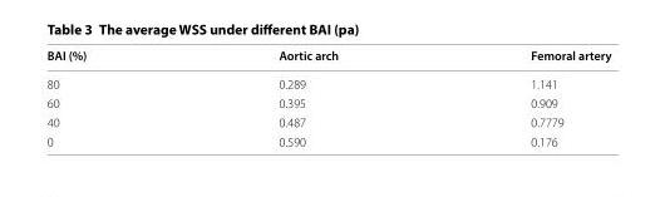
<table><thead><tr><td>BAI (%)</td><td>Aortic arch</td><td>Femoral artery</td></tr></thead><tbody><tr><td>80</td><td>0.289</td><td>1.141</td></tr><tr><td>60</td><td>0.395</td><td>0.909</td></tr><tr><td>40</td><td>0.487</td><td>0.7779</td></tr><tr><td>0</td><td>0.590</td><td>0.176</td></tr></tbody></table>